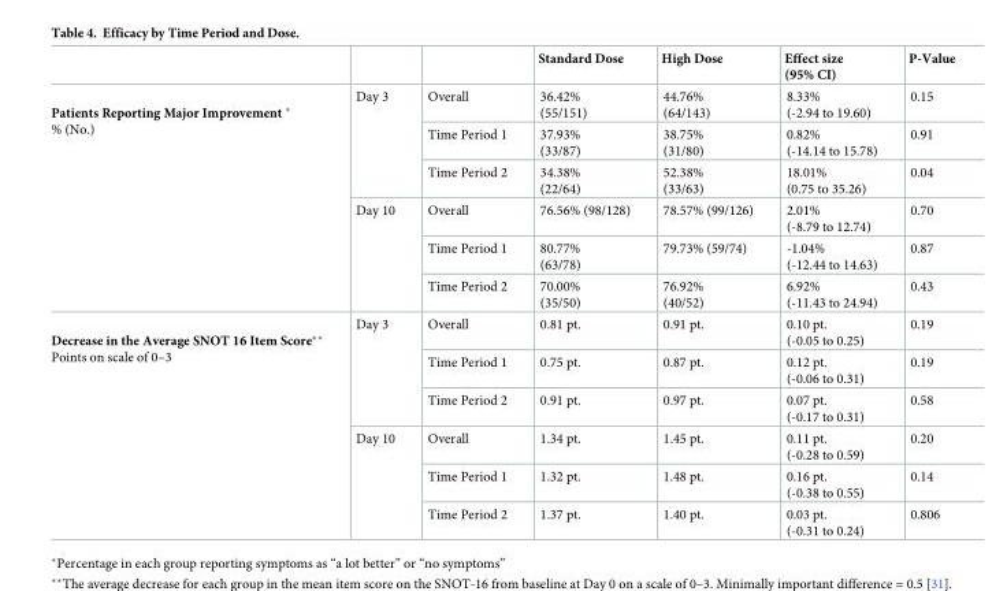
<table><thead><tr><td></td><td></td><td></td><td>Standard Dose</td><td>High Dose</td><td>Effect size (95% CI)</td><td>P-Value</td></tr></thead><tbody><tr><td rowspan="6">Patients Reporting Major Improvement * % (No.)</td><td rowspan="3">Day 3</td><td>Overall</td><td>36.42% (55/151)</td><td>44.76% (64/143)</td><td>8.33% (-2.94 to 19.60)</td><td>0.15</td></tr><tr><td>Time Period 1</td><td>37.93% (33/87)</td><td>38.75% (31/80)</td><td>0.82% (-14.14 to 15.78)</td><td>0.91</td></tr><tr><td>Time Period 2</td><td>34.38% (22/64)</td><td>52.38% (33/63)</td><td>18.01% (0.75 to 35.26)</td><td>0.04</td></tr><tr><td rowspan="3">Day 10</td><td>Overall</td><td>76.56% (98/128)</td><td>78.57% (99/126)</td><td>2.01% (-8.79 to 12.74)</td><td>0.70</td></tr><tr><td>Time Period 1</td><td>80.77% (63/78)</td><td>79.73% (59/74)</td><td>-1.04% (-12.44 to 14.63)</td><td>0.87</td></tr><tr><td>Time Period 2</td><td>70.00% (35/50)</td><td>76.92% (40/52)</td><td>6.92% (-11.43 to 24.94)</td><td>0.43</td></tr><tr><td rowspan="6">Decrease in the Average SNOT 16 Item Score** Points on scale of 0–3</td><td rowspan="3">Day 3</td><td>Overall</td><td>0.81 pt.</td><td>0.91 pt.</td><td>0.10 pt. (-0.05 to 0.25)</td><td>0.19</td></tr><tr><td>Time Period 1</td><td>0.75 pt.</td><td>0.87 pt.</td><td>0.12 pt. (-0.06 to 0.31)</td><td>0.19</td></tr><tr><td>Time Period 2</td><td>0.91 pt.</td><td>0.97 pt.</td><td>0.07 pt. (-0.17 to 0.31)</td><td>0.58</td></tr><tr><td rowspan="3">Day 10</td><td>Overall</td><td>1.34 pt.</td><td>1.45 pt.</td><td>0.11 pt. (-0.28 to 0.59)</td><td>0.20</td></tr><tr><td>Time Period 1</td><td>1.32 pt.</td><td>1.48 pt.</td><td>0.16 pt. (-0.38 to 0.55)</td><td>0.14</td></tr><tr><td>Time Period 2</td><td>1.37 pt.</td><td>1.40 pt.</td><td>0.03 pt. (-0.31 to 0.24)</td><td>0.806</td></tr></tbody></table>